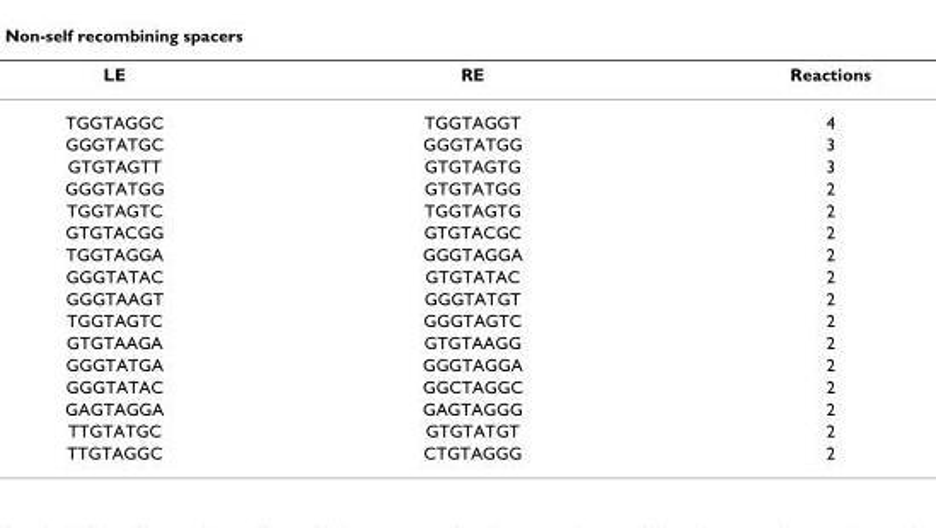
<table><thead><tr><td>LE</td><td>RE</td><td>Reactions</td></tr></thead><tbody><tr><td>TGGTAGGC</td><td>TGGTAGGT</td><td>4</td></tr><tr><td>GGGTATGC</td><td>GGGTATGG</td><td>3</td></tr><tr><td>GTGTAGTT</td><td>GTGTAGTG</td><td>3</td></tr><tr><td>GGGTATGG</td><td>GTGTATGG</td><td>2</td></tr><tr><td>TGGTAGTC</td><td>TGGTAGTG</td><td>2</td></tr><tr><td>GTGTACGG</td><td>GTGTACGC</td><td>2</td></tr><tr><td>TGGTAGGA</td><td>GGGTAGGA</td><td>2</td></tr><tr><td>GGGTATAC</td><td>GTGTATAC</td><td>2</td></tr><tr><td>GGGTAAGT</td><td>GGGTATGT</td><td>2</td></tr><tr><td>TGGTAGTC</td><td>GGGTAGTC</td><td>2</td></tr><tr><td>GTGTAAGA</td><td>GTGTAAGG</td><td>2</td></tr><tr><td>GGGTATGA</td><td>GGGTAGGA</td><td>2</td></tr><tr><td>GGGTATAC</td><td>GGCTAGGC</td><td>2</td></tr><tr><td>GAGTAGGA</td><td>GAGTAGGG</td><td>2</td></tr><tr><td>TTGTATGC</td><td>GTGTATGT</td><td>2</td></tr><tr><td>TTGTAGGC</td><td>CTGTAGGG</td><td>2</td></tr></tbody></table>